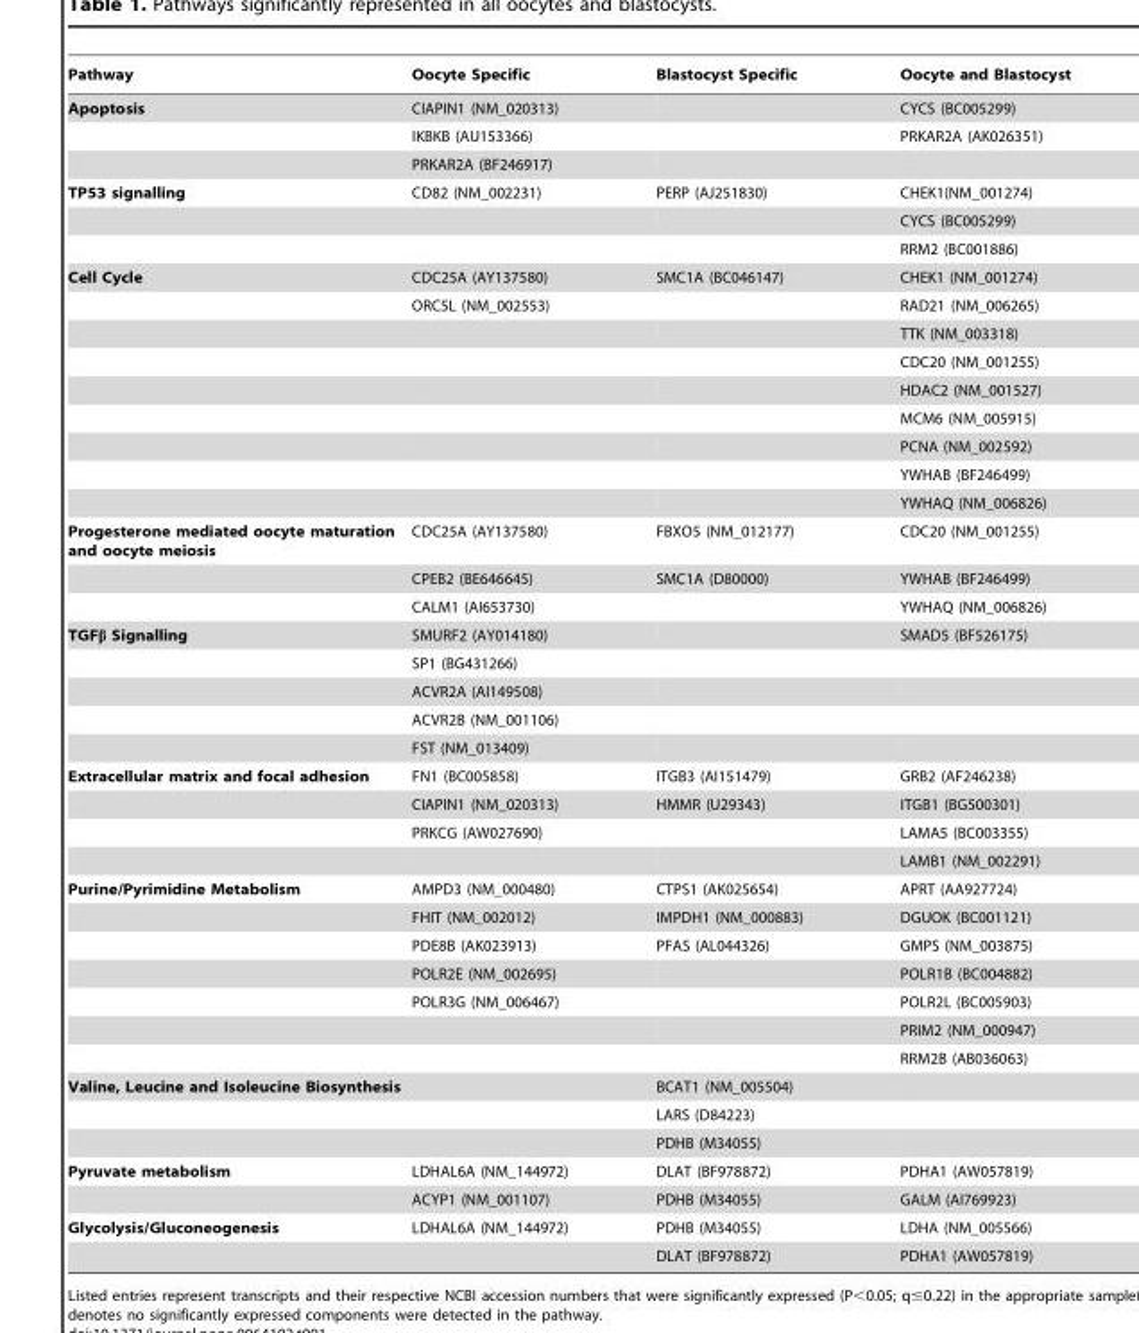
<table><thead><tr><td>Pathway</td><td>Oocyte Specific</td><td>Blastocyst Specific</td><td>Oocyte and Blastocyst</td></tr></thead><tbody><tr><td rowspan="3">Apoptosis</td><td>CIAPIN1 (NM_020313)</td><td></td><td>CYCS (BC005299)</td></tr><tr><td>IKBKB (AU153366)</td><td></td><td>PRKAR2A (AK026351)</td></tr><tr><td>PRKAR2A (BF246917)</td><td></td><td></td></tr><tr><td rowspan="3">TP53 signalling</td><td>CD82 (NM_002231)</td><td>PERP (AJ251830)</td><td>CHEK1(NM_001274)</td></tr><tr><td></td><td></td><td>CYCS (BC005299)</td></tr><tr><td></td><td></td><td>RRM2 (BC001886)</td></tr><tr><td rowspan="9">Cell Cycle</td><td>CDC25A (AY137580)</td><td>SMC1A (BC046147)</td><td>CHEK1 (NM_001274)</td></tr><tr><td>ORC5L (NM_002553)</td><td></td><td>RAD21 (NM_006265)</td></tr><tr><td></td><td></td><td>TTK (NM_003318)</td></tr><tr><td></td><td></td><td>CDC20 (NM_001255)</td></tr><tr><td></td><td></td><td>HDAC2 (NM_001527)</td></tr><tr><td></td><td></td><td>MCM6 (NM_005915)</td></tr><tr><td></td><td></td><td>PCNA (NM_002592)</td></tr><tr><td></td><td></td><td>YWHAB (BF246499)</td></tr><tr><td></td><td></td><td>YWHAQ (NM_006826)</td></tr><tr><td rowspan="3">Progesterone mediated oocyte maturation and oocyte meiosis</td><td>CDC25A (AY137580)</td><td>FBXO5 (NM_012177)</td><td>CDC20 (NM_001255)</td></tr><tr><td>CPEB2 (BE646645)</td><td>SMC1A (D80000)</td><td>YWHAB (BF246499)</td></tr><tr><td>CALM1 (AI653730)</td><td></td><td>YWHAQ (NM_006826)</td></tr><tr><td rowspan="5">TGFβ Signalling</td><td>SMURF2 (AY014180)</td><td></td><td>SMAD5 (BF526175)</td></tr><tr><td>SP1 (BG431266)</td><td></td><td></td></tr><tr><td>ACVR2A (AI149508)</td><td></td><td></td></tr><tr><td>ACVR2B (NM_001106)</td><td></td><td></td></tr><tr><td>FST (NM_013409)</td><td></td><td></td></tr><tr><td rowspan="4">Extracellular matrix and focal adhesion</td><td>FN1 (BC005858)</td><td>ITGB3 (AI151479)</td><td>GRB2 (AF246238)</td></tr><tr><td>CIAPIN1 (NM_020313)</td><td>HMMR (U29343)</td><td>ITGB1 (BG500301)</td></tr><tr><td>PRKCG (AW027690)</td><td></td><td>LAMA5 (BC003355)</td></tr><tr><td></td><td></td><td>LAMB1 (NM_002291)</td></tr><tr><td rowspan="7">Purine/Pyrimidine Metabolism</td><td>AMPD3 (NM_000480)</td><td>CTPS1 (AK025654)</td><td>APRT (AA927724)</td></tr><tr><td>FHIT (NM_002012)</td><td>IMPDH1 (NM_000883)</td><td>DGUOK (BC001121)</td></tr><tr><td>PDE8B (AK023913)</td><td>PFAS (AL044326)</td><td>GMPS (NM_003875)</td></tr><tr><td>POLR2E (NM_002695)</td><td></td><td>POLR1B (BC004882)</td></tr><tr><td>POLR3G (NM_006467)</td><td></td><td>POLR2L (BC005903)</td></tr><tr><td></td><td></td><td>PRIM2 (NM_000947)</td></tr><tr><td></td><td></td><td>RRM2B (AB036063)</td></tr><tr><td rowspan="3">Valine, Leucine and Isoleucine Biosynthesis</td><td></td><td>BCAT1 (NM_005504)</td><td></td></tr><tr><td></td><td>LARS (D84223)</td><td></td></tr><tr><td></td><td>PDHB (M34055)</td><td></td></tr><tr><td rowspan="2">Pyruvate metabolism</td><td>LDHAL6A (NM_144972)</td><td>DLAT (BF978872)</td><td>PDHA1 (AW057819)</td></tr><tr><td>ACYP1 (NM_001107)</td><td>PDHB (M34055)</td><td>GALM (AI769923)</td></tr><tr><td rowspan="2">Glycolysis/Gluconeogenesis</td><td>LDHAL6A (NM_144972)</td><td>PDHB (M34055)</td><td>LDHA (NM_005566)</td></tr><tr><td></td><td>DLAT (BF978872)</td><td>PDHA1 (AW057819)</td></tr></tbody></table>